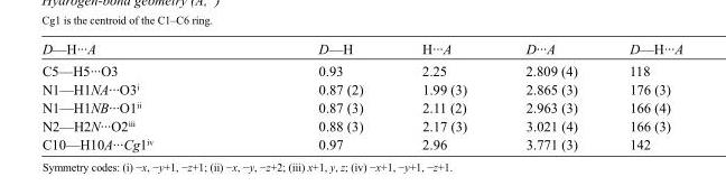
<table><tbody><tr><td>D—H···A</td><td>D—H</td><td>H···A</td><td>D···A</td><td>D—H···A</td></tr><tr><td>C5—H5···O3</td><td>0.93</td><td>2.25</td><td>2.809 (4)</td><td>118</td></tr><tr><td>N1—H1NA···O3<sup>i</sup></td><td>0.87 (2)</td><td>1.99 (3)</td><td>2.865 (3)</td><td>176 (3)</td></tr><tr><td>N1—H1NB···O1<sup>ii</sup></td><td>0.87 (3)</td><td>2.11 (2)</td><td>2.963 (3)</td><td>166 (4)</td></tr><tr><td>N2—H2N···O2<sup>iii</sup></td><td>0.88 (3)</td><td>2.17 (3)</td><td>3.021 (4)</td><td>166 (3)</td></tr><tr><td>C10—H10A···Cg1<sup>iv</sup></td><td>0.97</td><td>2.96</td><td>3.771 (3)</td><td>142</td></tr></tbody></table>